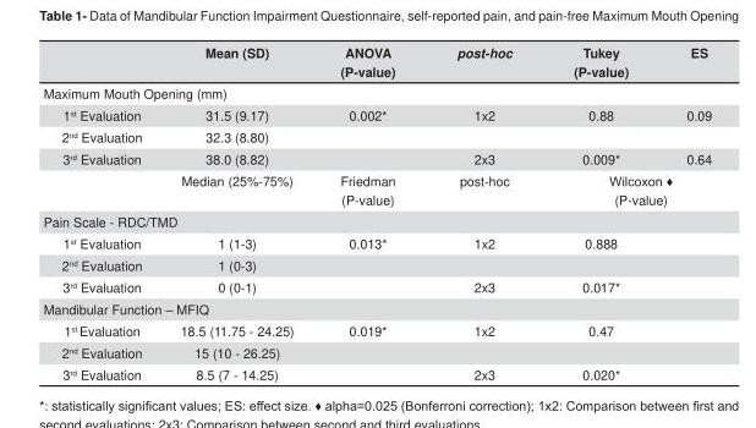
<table><thead><tr><td></td><td>Mean (SD)</td><td>ANOVA (P-value)</td><td>post-hoc</td><td>Tukey (P-value)</td><td>ES</td></tr></thead><tbody><tr><td colspan="6">Maximum Mouth Opening (mm)</td></tr><tr><td>1<sup>st</sup> Evaluation</td><td>31.5 (9.17)</td><td>0.002*</td><td>1x2</td><td>0.88</td><td>0.09</td></tr><tr><td>2<sup>nd</sup> Evaluation</td><td>32.3 (8.80)</td><td></td><td></td><td></td><td></td></tr><tr><td rowspan="2">3<sup>rd</sup> Evaluation</td><td>38.0 (8.82)</td><td></td><td>2x3</td><td>0.009*</td><td>0.64</td></tr><tr><td>Median (25%-75%)</td><td>Friedman (P-value)</td><td>post-hoc</td><td colspan="2">���������� (P-value)</td></tr><tr><td colspan="6">Pain Scale - RDC/TMD</td></tr><tr><td>1<sup>st</sup> Evaluation</td><td>1 (1-3)</td><td>0.013*</td><td>1x2</td><td>0.888</td><td></td></tr><tr><td>2<sup>nd</sup> Evaluation</td><td>1 (0-3)</td><td></td><td></td><td></td><td></td></tr><tr><td>3<sup>rd</sup> Evaluation</td><td>0 (0-1)</td><td></td><td>2x3</td><td>0.017*</td><td></td></tr><tr><td colspan="6">Mandibular Function – MFIQ</td></tr><tr><td>1<sup>st</sup> Evaluation</td><td>18.5 (11.75 - 24.25)</td><td>0.019*</td><td>1x2</td><td>0.47</td><td></td></tr><tr><td>2<sup>nd</sup> Evaluation</td><td>15 (10 - 26.25)</td><td></td><td></td><td></td><td></td></tr><tr><td>3<sup>rd</sup> Evaluation</td><td>8.5 (7 - 14.25)</td><td></td><td>2x3</td><td>0.020*</td><td></td></tr></tbody></table>